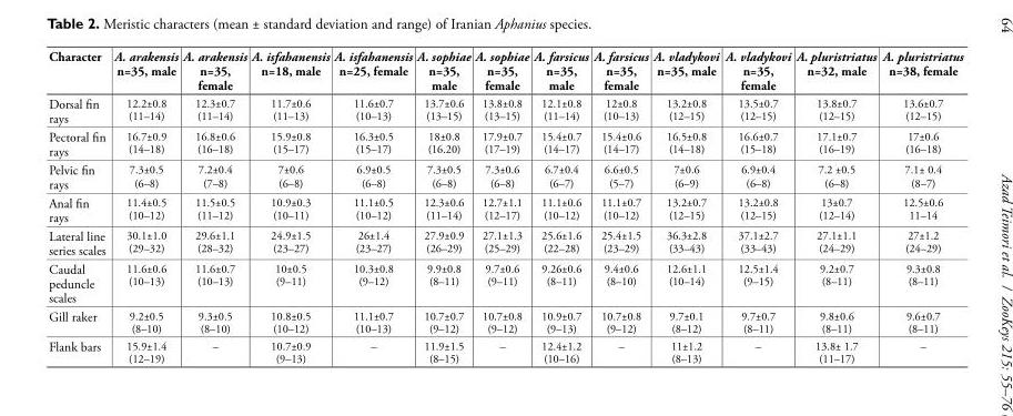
<table><thead><tr><td>Character</td><td>A. arakensis n=35, male</td><td>A. arakensis n=35, female</td><td>A. isfahanensis n=18, male</td><td>A. isfahanensis n=25, female</td><td>A. sophiae n=35, male</td><td>A. sophiae n=35, female</td><td>A. farsicus n=35, male</td><td>A. farsicus n=35, female</td><td>A. vladykovi n=35, male</td><td>A. vladykovi n=35, female</td><td>A. pluristriatus n=32, male</td><td>A. pluristriatus n=38, female</td></tr></thead><tbody><tr><td>Dorsal fin rays</td><td>12.2±0.8 (11–14)</td><td>12.3±0.7 (11–14)</td><td>11.7±0.6 (11–13)</td><td>11.6±0.7 (10–13)</td><td>13.7±0.6 (13–15)</td><td>13.8±0.8 (13–15)</td><td>12.1±0.8 (11–14)</td><td>12±0.8 (10–13)</td><td>13.2±0.8 (12–15)</td><td>13.5±0.7 (12–15)</td><td>13.8±0.7 (12–15)</td><td>13.6±0.7 (12–15)</td></tr><tr><td>Pectoral fin rays</td><td>16.7±0.9 (14–18)</td><td>16.8±0.6 (16–18)</td><td>15.9±0.8 (15–17)</td><td>16.3±0.5 (15–17)</td><td>18±0.8 (16.20)</td><td>17.9±0.7 (17–19)</td><td>15.4±0.7 (14–17)</td><td>15.4±0.6 (14–17)</td><td>16.5±0.8 (14–18)</td><td>16.6±0.7 (15–18)</td><td>17.1±0.7 (16–19)</td><td>17±0.6 (16–18)</td></tr><tr><td>Pelvic fin rays</td><td>7.3±0.5 (6–8)</td><td>7.2±0.4 (7–8)</td><td>7±0.6 (6–8)</td><td>6.9±0.5 (6–8)</td><td>7.3±0.5 (6–8)</td><td>7.3±0.6 (6–8)</td><td>6.7±0.4 (6–7)</td><td>6.6±0.5 (5–7)</td><td>7±0.6 (6–9)</td><td>6.9±0.4 (6–8)</td><td>7.2 ±0.5 (6–8)</td><td>7.1± 0.4 (8–7)</td></tr><tr><td>Anal fin rays</td><td>11.4±0.5 (10–12)</td><td>11.5±0.5 (11–12)</td><td>10.9±0.3 (10–11)</td><td>11.1±0.5 (10–12)</td><td>12.3±0.6 (11–14)</td><td>12.7±1.1 (12–17)</td><td>11.1±0.6 (10–12)</td><td>11.1±0.7 (10–12)</td><td>13.2±0.7 (12–15)</td><td>13.2±0.8 (12–15)</td><td>13±0.7 (12–14)</td><td>12.5±0.6 11–14</td></tr><tr><td>Lateral line series scales</td><td>30.1±1.0 (29–32)</td><td>29.6±1.1 (28–32)</td><td>24.9±1.5 (23–27)</td><td>26±1.4 (23–27)</td><td>27.9±0.9 (26–29)</td><td>27.1±1.3 (25–29)</td><td>25.6±1.6 (22–28)</td><td>25.4±1.5 (23–29)</td><td>36.3±2.8 (33–43)</td><td>37.1±2.7 (33–43)</td><td>27.1±1.1 (24–29)</td><td>27±1.2 (24–29)</td></tr><tr><td>Caudal peduncle scales</td><td>11.6±0.6 (10–13)</td><td>11.6±0.7 (10–13)</td><td>10±0.5 (9–11)</td><td>10.3±0.8 (9–12)</td><td>9.9±0.8 (8–11)</td><td>9.7±0.6 (9–11)</td><td>9.26±0.6 (8–11)</td><td>9.4±0.6 (8–10)</td><td>12.6±1.1 (10–14)</td><td>12.5±1.4 (9–15)</td><td>9.2±0.7 (8–11)</td><td>9.3±0.8 (8–11)</td></tr><tr><td>Gill raker</td><td>9.2±0.5 (8–10)</td><td>9.3±0.5 (8–10)</td><td>10.8±0.5 (10–12)</td><td>11.1±0.7 (10–13)</td><td>10.7±0.7 (9–12)</td><td>10.7±0.8 (9–12)</td><td>10.9±0.7 (9–13)</td><td>10.7±0.8 (9–12)</td><td>9.7±0.1 (8–12)</td><td>9.7±0.7 (8–11)</td><td>9.8±0.6 (8–11)</td><td>9.6±0.7 (8–11)</td></tr><tr><td>Flank bars</td><td>15.9±1.4 (12–19)</td><td>–</td><td>10.7±0.9 (9–13)</td><td>–</td><td>11.9±1.5 (8–15)</td><td>–</td><td>12.4±1.2 (10–16)</td><td>–</td><td>11±1.2 (8–13)</td><td>–</td><td>13.8± 1.7 (11–17)</td><td>–</td></tr></tbody></table>